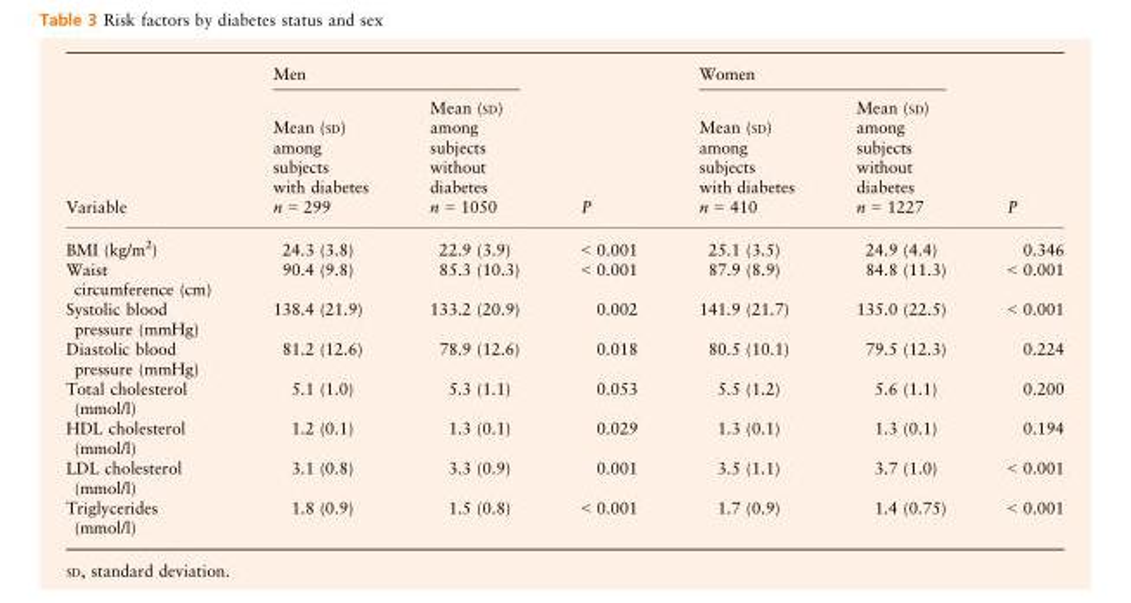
<table><thead><tr><td rowspan="2">Variable</td><td colspan="2">Men</td><td rowspan="2">P</td><td colspan="2">Women</td><td rowspan="2">P</td></tr><tr><td>Mean (SD) among subjects with diabetes n = 299</td><td>Mean (SD) among subjects without diabetes n = 1050</td><td>Mean (SD) among subjects with diabetes n = 410</td><td>Mean (SD) among subjects without diabetes n = 1227</td></tr></thead><tbody><tr><td>BMI (kg/m<sup>2</sup>)</td><td>24.3 (3.8)</td><td>22.9 (3.9)</td><td>&lt; 0.001</td><td>25.1 (3.5)</td><td>24.9 (4.4)</td><td>0.346</td></tr><tr><td>Waist circumference (cm)</td><td>90.4 (9.8)</td><td>85.3 (10.3)</td><td>&lt; 0.001</td><td>87.9 (8.9)</td><td>84.8 (11.3)</td><td>&lt; 0.001</td></tr><tr><td>Systolic blood pressure (mmHg)</td><td>138.4 (21.9)</td><td>133.2 (20.9)</td><td>0.002</td><td>141.9 (21.7)</td><td>135.0 (22.5)</td><td>&lt; 0.001</td></tr><tr><td>Diastolic blood pressure (mmHg)</td><td>81.2 (12.6)</td><td>78.9 (12.6)</td><td>0.018</td><td>80.5 (10.1)</td><td>79.5 (12.3)</td><td>0.224</td></tr><tr><td>Total cholesterol (mmol/l)</td><td>5.1 (1.0)</td><td>5.3 (1.1)</td><td>0.053</td><td>5.5 (1.2)</td><td>5.6 (1.1)</td><td>0.200</td></tr><tr><td>HDL cholesterol (mmol/l)</td><td>1.2 (0.1)</td><td>1.3 (0.1)</td><td>0.029</td><td>1.3 (0.1)</td><td>1.3 (0.1)</td><td>0.194</td></tr><tr><td>LDL cholesterol (mmol/l)</td><td>3.1 (0.8)</td><td>3.3 (0.9)</td><td>0.001</td><td>3.5 (1.1)</td><td>3.7 (1.0)</td><td>&lt; 0.001</td></tr><tr><td>Triglycerides (mmol/l)</td><td>1.8 (0.9)</td><td>1.5 (0.8)</td><td>&lt; 0.001</td><td>1.7 (0.9)</td><td>1.4 (0.75)</td><td>&lt; 0.001</td></tr></tbody></table>